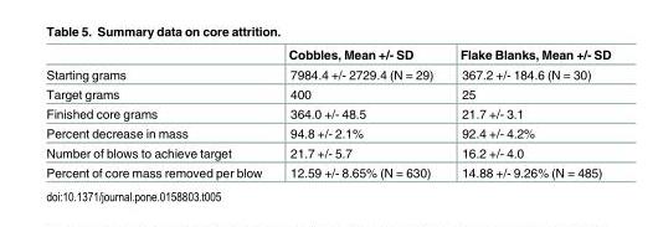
<table><thead><tr><td></td><td>Cobbles, Mean +/- SD</td><td>Flake Blanks, Mean +/- SD</td></tr></thead><tbody><tr><td>Starting grams</td><td>7984.4 +/- 2729.4 (N = 29)</td><td>367.2 +/- 184.6 (N = 30)</td></tr><tr><td>Target grams</td><td>400</td><td>25</td></tr><tr><td>Finished core grams</td><td>364.0 +/- 48.5</td><td>21.7 +/- 3.1</td></tr><tr><td>Percent decrease in mass</td><td>94.8 +/- 2.1%</td><td>92.4 +/- 4.2%</td></tr><tr><td>Number of blows to achieve target</td><td>21.7 +/- 5.7</td><td>16.2 +/- 4.0</td></tr><tr><td>Percent of core mass removed per blow</td><td>12.59 +/- 8.65% (N = 630)</td><td>14.88 +/- 9.26% (N = 485)</td></tr></tbody></table>